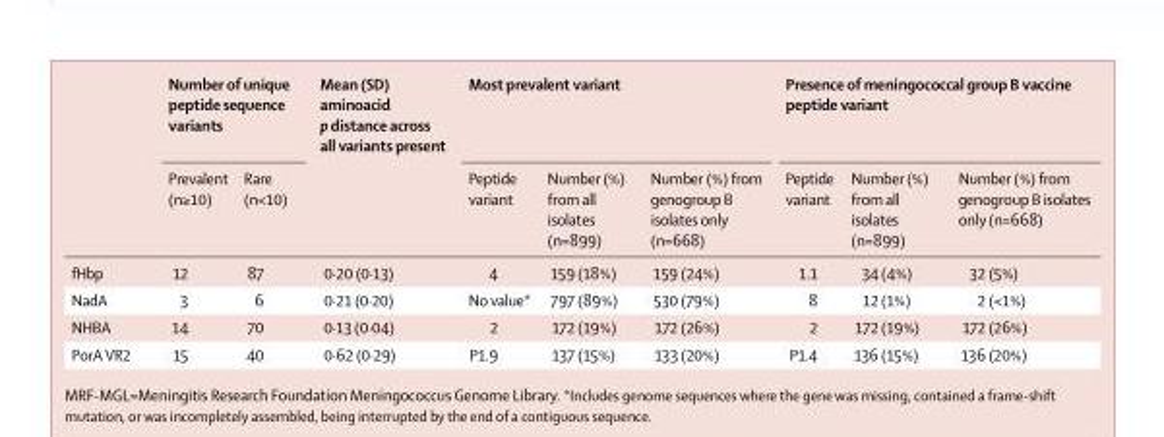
<table><thead><tr><td rowspan="2"></td><td colspan="2">Number of unique peptide sequence variants</td><td rowspan="2">Mean (SD) aminoacid p distance across all variants present</td><td colspan="3">Most prevalent variant</td><td colspan="3">Presence of meningococcal group B vaccine peptide variant</td></tr><tr><td>Prevalent (n≥10)</td><td>Rare (n&lt;10)</td><td>Peptide variant</td><td>Number (%) from all isolates (n=899)</td><td>Number (%) from genogroup B isolates only (n=668)</td><td>Peptide variant</td><td>Number (%) from all isolates (n=899)</td><td>Number (%) from genogroup B isolates only (n=668)</td></tr></thead><tbody><tr><td>fHbp</td><td>12</td><td>87</td><td>0·20 (0·13)</td><td>4</td><td>159 (18%)</td><td>159 (24%)</td><td>1.1</td><td>34 (4%)</td><td>32 (5%)</td></tr><tr><td>NadA</td><td>3</td><td>6</td><td>0·21 (0·20)</td><td>No value*</td><td>797 (89%)</td><td>530 (79%)</td><td>8</td><td>12 (1%)</td><td>2 (&lt;1%)</td></tr><tr><td>NHBA</td><td>14</td><td>70</td><td>0·13 (0·04)</td><td>2</td><td>172 (19%)</td><td>172 (26%)</td><td>2</td><td>172 (19%)</td><td>172 (26%)</td></tr><tr><td>PorA VR2</td><td>15</td><td>40</td><td>0·62 (0·29)</td><td>P1.9</td><td>137 (15%)</td><td>133 (20%)</td><td>P1.4</td><td>136 (15%)</td><td>136 (20%)</td></tr></tbody></table>